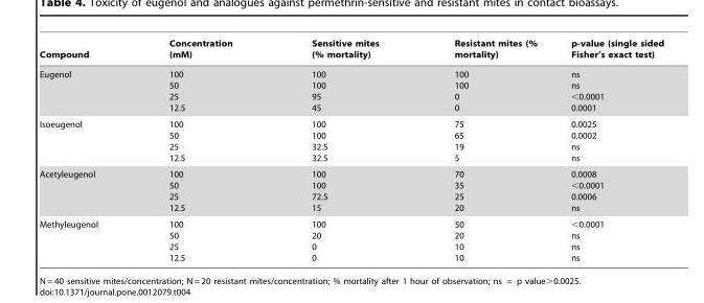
<table><thead><tr><td>Compound</td><td>Concentration (mM)</td><td>Sensitive mites (% mortality)</td><td>Resistant mites (% mortality)</td><td>p-value (single sided Fisher’s exact test)</td></tr></thead><tbody><tr><td>Eugenol</td><td>100 50 25 12.5</td><td>100 100 95 45</td><td>100 100 0 0</td><td>ns ns &lt;0.0001 0.0001</td></tr><tr><td>Isoeugenol</td><td>100 50 25 12.5</td><td>100 100 32.5 32.5</td><td>75 65 19 5</td><td>0.0025 0.0002 ns ns</td></tr><tr><td>Acetyleugenol</td><td>100 50 25 12.5</td><td>100 100 72.5 15</td><td>70 35 25 20</td><td>0.0008 &lt;0.0001 0.0006 ns</td></tr><tr><td>Methyleugenol</td><td>100 50 25 12.5</td><td>100 20 0 0</td><td>50 20 10 10</td><td>&lt;0.0001 ns ns ns</td></tr></tbody></table>